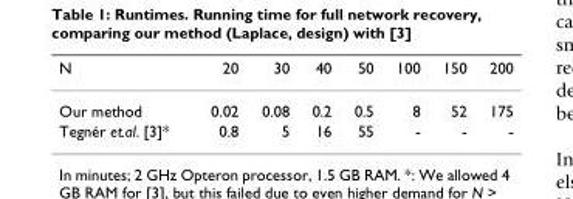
<table><thead><tr><td>N</td><td>20</td><td>30</td><td>40</td><td>50</td><td>100</td><td>150</td><td>200</td></tr></thead><tbody><tr><td>Our method</td><td>0.02</td><td>0.08</td><td>0.2</td><td>0.5</td><td>8</td><td>52</td><td>175</td></tr><tr><td>Tegnér et.al. [3]*</td><td>0.8</td><td>5</td><td>16</td><td>55</td><td>-</td><td>-</td><td>-</td></tr></tbody></table>